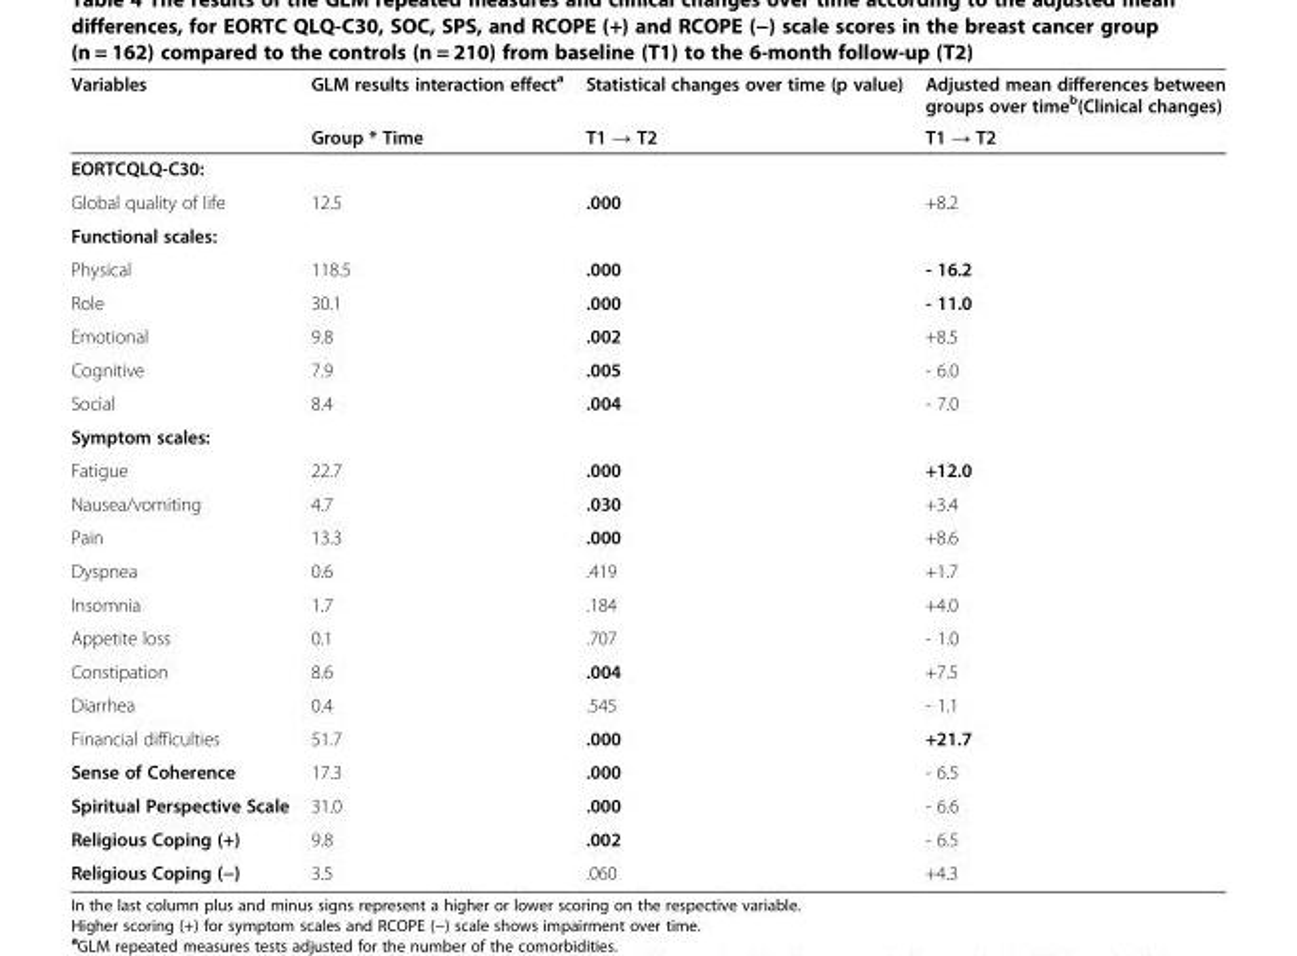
<table><thead><tr><td rowspan="2">Variables</td><td rowspan="2">GLM results interaction effect<sup>a</sup> Group * Time</td><td rowspan="2">Statistical changes over time (p value) T1 → T2</td><td rowspan="2">Adjusted mean differences between groups over time<sup>b</sup>(Clinical changes) T1 → T2</td></tr><tr></tr></thead><tbody><tr><td colspan="4">EORTCQLQ-C30:</td></tr><tr><td>Global quality of life</td><td>12.5</td><td>.000</td><td>+8.2</td></tr><tr><td colspan="4">Functional scales:</td></tr><tr><td>Physical</td><td>118.5</td><td>.000</td><td>- 16.2</td></tr><tr><td>Role</td><td>30.1</td><td>.000</td><td>- 11.0</td></tr><tr><td>Emotional</td><td>9.8</td><td>.002</td><td>+8.5</td></tr><tr><td>Cognitive</td><td>7.9</td><td>.005</td><td>- 6.0</td></tr><tr><td>Social</td><td>8.4</td><td>.004</td><td>- 7.0</td></tr><tr><td colspan="4">Symptom scales:</td></tr><tr><td>Fatigue</td><td>22.7</td><td>.000</td><td>+12.0</td></tr><tr><td>Nausea/vomiting</td><td>4.7</td><td>.030</td><td>+3.4</td></tr><tr><td>Pain</td><td>13.3</td><td>.000</td><td>+8.6</td></tr><tr><td>Dyspnea</td><td>0.6</td><td>.419</td><td>+1.7</td></tr><tr><td>Insomnia</td><td>1.7</td><td>.184</td><td>+4.0</td></tr><tr><td>Appetite loss</td><td>0.1</td><td>.707</td><td>- 1.0</td></tr><tr><td>Constipation</td><td>8.6</td><td>.004</td><td>+7.5</td></tr><tr><td>Diarrhea</td><td>0.4</td><td>.545</td><td>- 1.1</td></tr><tr><td>Financial difficulties</td><td>51.7</td><td>.000</td><td>+21.7</td></tr><tr><td>Sense of Coherence</td><td>17.3</td><td>.000</td><td>- 6.5</td></tr><tr><td>Spiritual Perspective Scale</td><td>31.0</td><td>.000</td><td>- 6.6</td></tr><tr><td>Religious Coping (+)</td><td>9.8</td><td>.002</td><td>- 6.5</td></tr><tr><td>Religious Coping (−)</td><td>3.5</td><td>.060</td><td>+4.3</td></tr></tbody></table>